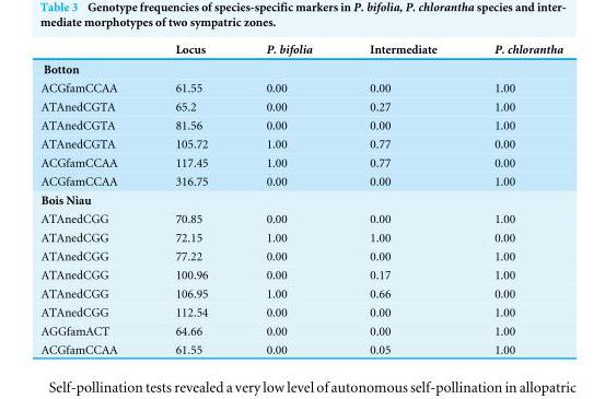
<table><thead><tr><td></td><td>Locus</td><td>P. bifolia</td><td>Intermediate</td><td>P. chlorantha</td></tr></thead><tbody><tr><td colspan="5">Botton</td></tr><tr><td>ACGfamCCAA</td><td>61.55</td><td>0.00</td><td>0.00</td><td>1.00</td></tr><tr><td>ATAnedCGTA</td><td>65.2</td><td>0.00</td><td>0.27</td><td>1.00</td></tr><tr><td>ATAnedCGTA</td><td>81.56</td><td>0.00</td><td>0.00</td><td>1.00</td></tr><tr><td>ATAnedCGTA</td><td>105.72</td><td>1.00</td><td>0.77</td><td>0.00</td></tr><tr><td>ACGfamCCAA</td><td>117.45</td><td>1.00</td><td>0.77</td><td>0.00</td></tr><tr><td>ACGfamCCAA</td><td>316.75</td><td>0.00</td><td>0.00</td><td>1.00</td></tr><tr><td colspan="5">Bois Niau</td></tr><tr><td>ATAnedCGG</td><td>70.85</td><td>0.00</td><td>0.00</td><td>1.00</td></tr><tr><td>ATAnedCGG</td><td>72.15</td><td>1.00</td><td>1.00</td><td>0.00</td></tr><tr><td>ATAnedCGG</td><td>77.22</td><td>0.00</td><td>0.00</td><td>1.00</td></tr><tr><td>ATAnedCGG</td><td>100.96</td><td>0.00</td><td>0.17</td><td>1.00</td></tr><tr><td>ATAnedCGG</td><td>106.95</td><td>1.00</td><td>0.66</td><td>0.00</td></tr><tr><td>ATAnedCGG</td><td>112.54</td><td>0.00</td><td>0.00</td><td>1.00</td></tr><tr><td>AGGfamACT</td><td>64.66</td><td>0.00</td><td>0.00</td><td>1.00</td></tr><tr><td>ACGfamCCAA</td><td>61.55</td><td>0.00</td><td>0.05</td><td>1.00</td></tr></tbody></table>